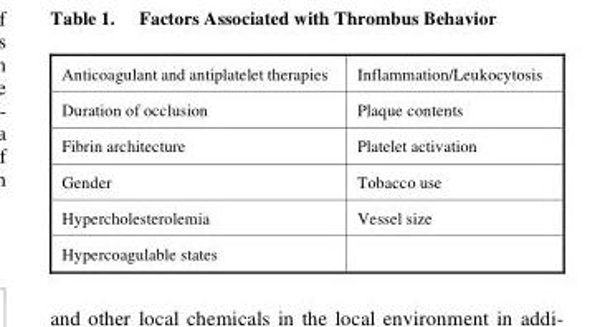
<table><tbody><tr><td>Anticoagulant and antiplatelet therapies</td><td>Inflammation/Leukocytosis</td></tr><tr><td>Duration of occlusion</td><td>Plaque contents</td></tr><tr><td>Fibrin architecture</td><td>Platelet activation</td></tr><tr><td>Gender</td><td>Tobacco use</td></tr><tr><td>Hypercholesterolemia</td><td>Vessel size</td></tr><tr><td>Hypercoagulable states</td><td></td></tr></tbody></table>